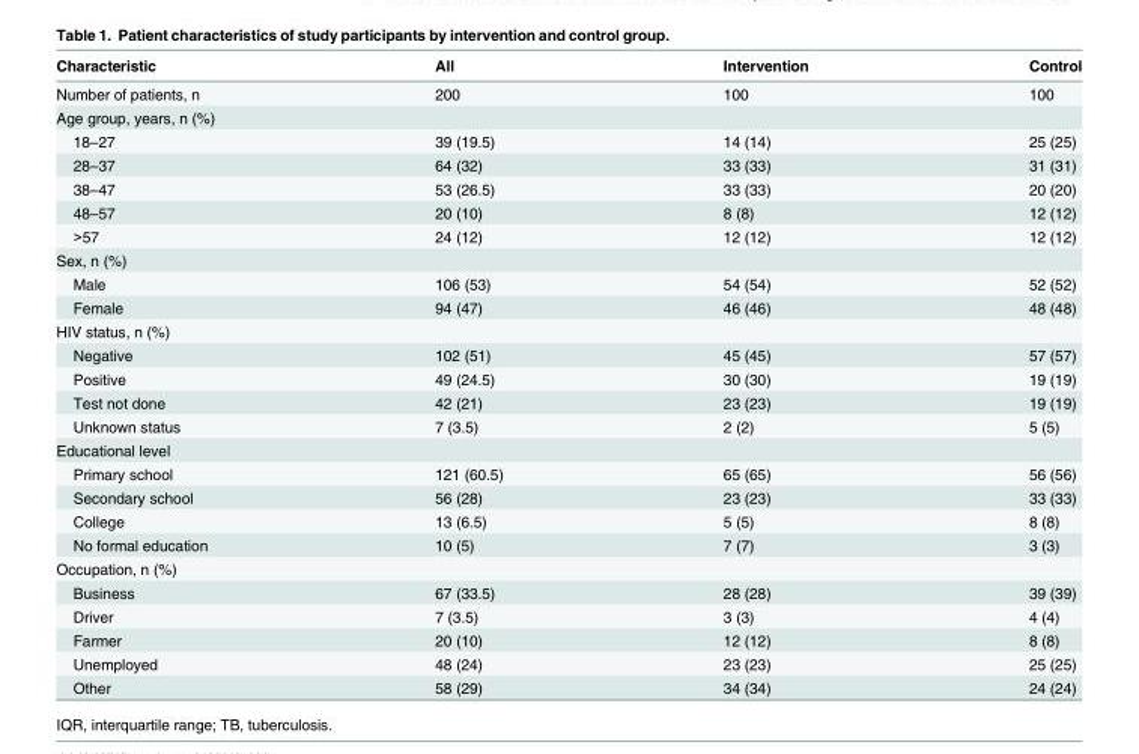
<table><thead><tr><td>Characteristic</td><td>All</td><td>Intervention</td><td>Control</td></tr></thead><tbody><tr><td>Number of patients, n</td><td>200</td><td>100</td><td>100</td></tr><tr><td colspan="4">Age group, years, n (%)</td></tr><tr><td>18–27</td><td>39 (19.5)</td><td>14 (14)</td><td>25 (25)</td></tr><tr><td>28–37</td><td>64 (32)</td><td>33 (33)</td><td>31 (31)</td></tr><tr><td>38–47</td><td>53 (26.5)</td><td>33 (33)</td><td>20 (20)</td></tr><tr><td>48–57</td><td>20 (10)</td><td>8 (8)</td><td>12 (12)</td></tr><tr><td>&gt;57</td><td>24 (12)</td><td>12 (12)</td><td>12 (12)</td></tr><tr><td colspan="4">Sex, n (%)</td></tr><tr><td>Male</td><td>106 (53)</td><td>54 (54)</td><td>52 (52)</td></tr><tr><td>Female</td><td>94 (47)</td><td>46 (46)</td><td>48 (48)</td></tr><tr><td colspan="4">HIV status, n (%)</td></tr><tr><td>Negative</td><td>102 (51)</td><td>45 (45)</td><td>57 (57)</td></tr><tr><td>Positive</td><td>49 (24.5)</td><td>30 (30)</td><td>19 (19)</td></tr><tr><td>Test not done</td><td>42 (21)</td><td>23 (23)</td><td>19 (19)</td></tr><tr><td>Unknown status</td><td>7 (3.5)</td><td>2 (2)</td><td>5 (5)</td></tr><tr><td colspan="4">Educational level</td></tr><tr><td>Primary school</td><td>121 (60.5)</td><td>65 (65)</td><td>56 (56)</td></tr><tr><td>Secondary school</td><td>56 (28)</td><td>23 (23)</td><td>33 (33)</td></tr><tr><td>College</td><td>13 (6.5)</td><td>5 (5)</td><td>8 (8)</td></tr><tr><td>No formal education</td><td>10 (5)</td><td>7 (7)</td><td>3 (3)</td></tr><tr><td colspan="4">Occupation, n (%)</td></tr><tr><td>Business</td><td>67 (33.5)</td><td>28 (28)</td><td>39 (39)</td></tr><tr><td>Driver</td><td>7 (3.5)</td><td>3 (3)</td><td>4 (4)</td></tr><tr><td>Farmer</td><td>20 (10)</td><td>12 (12)</td><td>8 (8)</td></tr><tr><td>Unemployed</td><td>48 (24)</td><td>23 (23)</td><td>25 (25)</td></tr><tr><td>Other</td><td>58 (29)</td><td>34 (34)</td><td>24 (24)</td></tr></tbody></table>